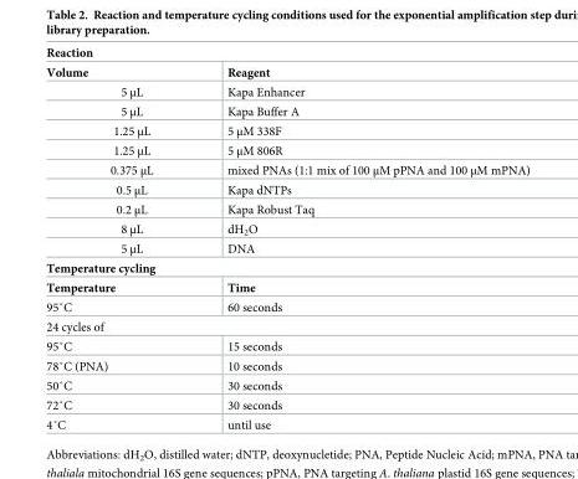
<table><tbody><tr><td colspan="2">Reaction</td></tr><tr><td>Volume</td><td>Reagent</td></tr><tr><td>5 μL</td><td>Kapa Enhancer</td></tr><tr><td>5 μL</td><td>Kapa Buffer A</td></tr><tr><td>1.25 μL</td><td>5 μM 338F</td></tr><tr><td>1.25 μL</td><td>5 μM 806R</td></tr><tr><td>0.375 μL</td><td>mixed PNAs (1:1 mix of 100 μM pPNA and 100 μM mPNA)</td></tr><tr><td>0.5 μL</td><td>Kapa dNTPs</td></tr><tr><td>0.2 μL</td><td>Kapa Robust Taq</td></tr><tr><td>8 μL</td><td>dH<sub>2</sub>O</td></tr><tr><td>5 μL</td><td>DNA</td></tr><tr><td colspan="2">Temperature cycling</td></tr><tr><td>Temperature</td><td>Time</td></tr><tr><td>95˚C</td><td>60 seconds</td></tr><tr><td colspan="2">24 cycles of</td></tr><tr><td>95˚C</td><td>15 seconds</td></tr><tr><td>78˚C (PNA)</td><td>10 seconds</td></tr><tr><td>50˚C</td><td>30 seconds</td></tr><tr><td>72˚C</td><td>30 seconds</td></tr><tr><td>4˚C</td><td>until use</td></tr></tbody></table>